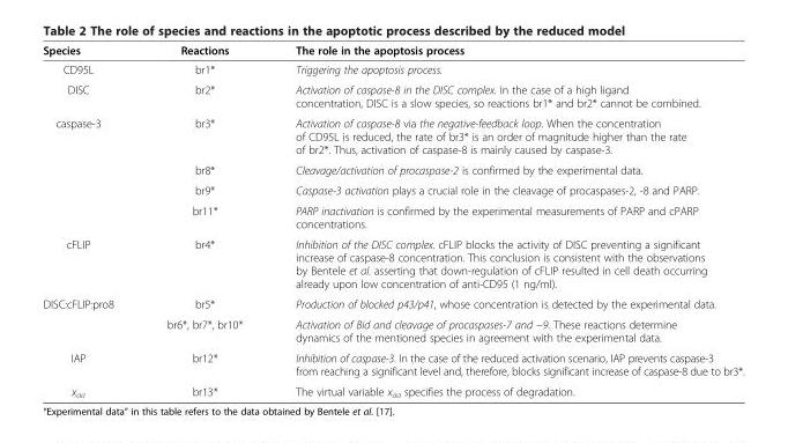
<table><thead><tr><td>Species</td><td>Reactions</td><td>The role in the apoptosis process</td></tr></thead><tbody><tr><td>CD95L</td><td>br1*</td><td>Triggering the apoptosis process.</td></tr><tr><td>DISC</td><td>br2*</td><td>Activation of caspase-8 in the DISC complex. In the case of a high ligand concentration, DISC is a slow species, so reactions br1* and br2* cannot be combined.</td></tr><tr><td rowspan="4">caspase-3</td><td>br3*</td><td>Activation of caspase-8 via the negative-feedback loop. When the concentration of CD95L is reduced, the rate of br3* is an order of magnitude higher than the rate of br2*. Thus, activation of caspase-8 is mainly caused by caspase-3.</td></tr><tr><td>br8*</td><td>Cleavage/activation of procaspase-2 is confirmed by the experimental data.</td></tr><tr><td>br9*</td><td>Caspase-3 activation plays a crucial role in the cleavage of procaspases-2, -8 and PARP.</td></tr><tr><td>br11*</td><td>PARP inactivation is confirmed by the experimental measurements of PARP and cPARP concentrations.</td></tr><tr><td>cFLIP</td><td>br4*</td><td>Inhibition of the DISC complex. cFLIP blocks the activity of DISC preventing a significant increase of caspase-8 concentration. This conclusion is consistent with the observations by Bentele et al. asserting that down-regulation of cFLIP resulted in cell death occurring already upon low concentration of anti-CD95 (1 ng/ml).</td></tr><tr><td rowspan="2">DISC:cFLIP:pro8</td><td>br5*</td><td>Production of blocked p43/p41, whose concentration is detected by the experimental data.</td></tr><tr><td>br6*, br7*, br10*</td><td>Activation of Bid and cleavage of procaspases-7 and −9. These reactions determine dynamics of the mentioned species in agreement with the experimental data.</td></tr><tr><td>IAP</td><td>br12*</td><td>Inhibition of caspase-3. In the case of the reduced activation scenario, IAP prevents caspase-3 from reaching a significant level and, therefore, blocks significant increase of caspase-8 due to br3*.</td></tr><tr><td>x<sub>aa</sub></td><td>br13*</td><td>The virtual variable x<sub>aa</sub> specifies the process of degradation.</td></tr></tbody></table>